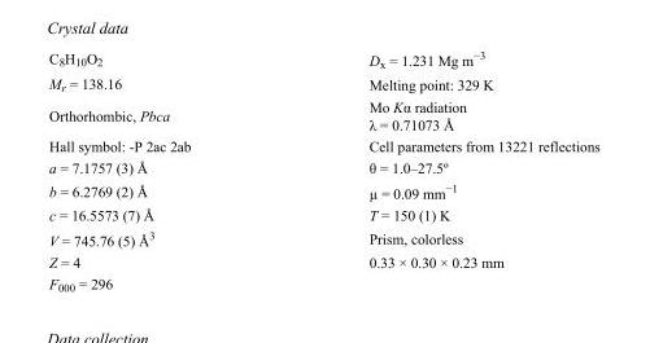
<table><tbody><tr><td>C<sub>8</sub>H<sub>10</sub>O<sub>2</sub></td><td>D<sub>x</sub> = 1.231 Mg m<sup>−3</sup></td></tr><tr><td>M<sub>r</sub> = 138.16</td><td>Melting point: 329 K</td></tr><tr><td>Orthorhombic, Pbca</td><td>Mo Kα radiation λ = 0.71073 Å</td></tr><tr><td>Hall symbol: -P 2ac 2ab</td><td>Cell parameters from 13221 reflections</td></tr><tr><td>a = 7.1757 (3) Å</td><td>θ = 1.0–27.5º</td></tr><tr><td>b = 6.2769 (2) Å</td><td>µ = 0.09 mm<sup>−1</sup></td></tr><tr><td>c = 16.5573 (7) Å</td><td>T = 150 (1) K</td></tr><tr><td>V = 745.76 (5) Å<sup>3</sup></td><td>Prism, colorless</td></tr><tr><td>Z = 4</td><td>0.33 × 0.30 × 0.23 mm</td></tr><tr><td>F000 = 296</td><td></td></tr></tbody></table>